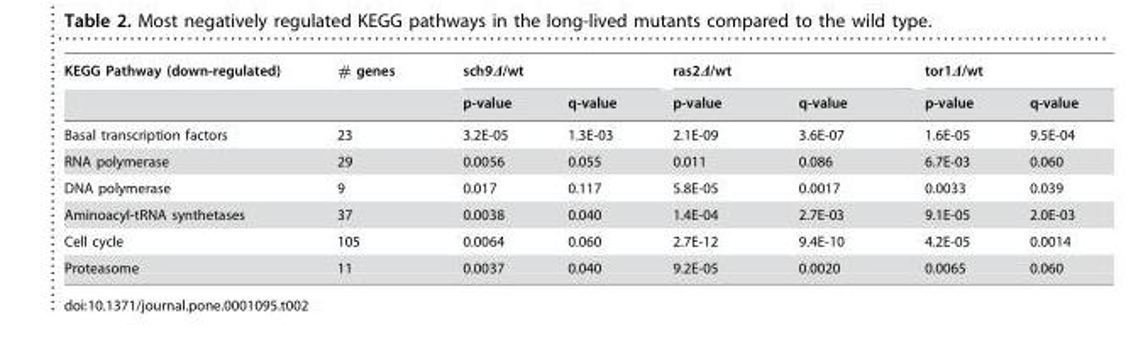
<table><thead><tr><td rowspan="2">KEGG Pathway (down-regulated)</td><td rowspan="2"># genes</td><td colspan="2">sch9Δ/wt</td><td colspan="2">ras2Δ/wt</td><td colspan="2">tor1Δ/wt</td></tr><tr><td>p-value</td><td>q-value</td><td>p-value</td><td>q-value</td><td>p-value</td><td>q-value</td></tr></thead><tbody><tr><td>Basal transcription factors</td><td>23</td><td>3.2E-05</td><td>1.3E-03</td><td>2.1E-09</td><td>3.6E-07</td><td>1.6E-05</td><td>9.5E-04</td></tr><tr><td>RNA polymerase</td><td>29</td><td>0.0056</td><td>0.055</td><td>0.011</td><td>0.086</td><td>6.7E-03</td><td>0.060</td></tr><tr><td>DNA polymerase</td><td>9</td><td>0.017</td><td>0.117</td><td>5.8E-05</td><td>0.0017</td><td>0.0033</td><td>0.039</td></tr><tr><td>Aminoacyl-tRNA synthetases</td><td>37</td><td>0.0038</td><td>0.040</td><td>1.4E-04</td><td>2.7E-03</td><td>9.1E-05</td><td>2.0E-03</td></tr><tr><td>Cell cycle</td><td>105</td><td>0.0064</td><td>0.060</td><td>2.7E-12</td><td>9.4E-10</td><td>4.2E-05</td><td>0.0014</td></tr><tr><td>Proteasome</td><td>11</td><td>0.0037</td><td>0.040</td><td>9.2E-05</td><td>0.0020</td><td>0.0065</td><td>0.060</td></tr></tbody></table>